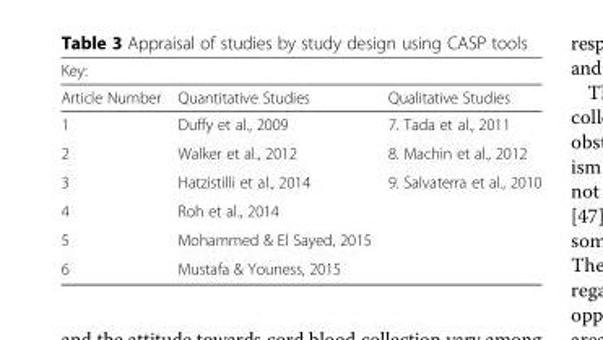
<table><thead><tr><td colspan="3">Key:</td></tr><tr><td>Article Number</td><td>Quantitative Studies</td><td>Qualitative Studies</td></tr></thead><tbody><tr><td>1</td><td>Duffy et al., 2009</td><td>7. Tada et al., 2011</td></tr><tr><td>2</td><td>Walker et al., 2012</td><td>8. Machin et al., 2012</td></tr><tr><td>3</td><td>Hatzistilli et al., 2014</td><td>9. Salvaterra et al., 2010</td></tr><tr><td>4</td><td>Roh et al., 2014</td><td></td></tr><tr><td>5</td><td>Mohammed &amp; El Sayed, 2015</td><td></td></tr><tr><td>6</td><td>Mustafa &amp; Youness, 2015</td><td></td></tr></tbody></table>